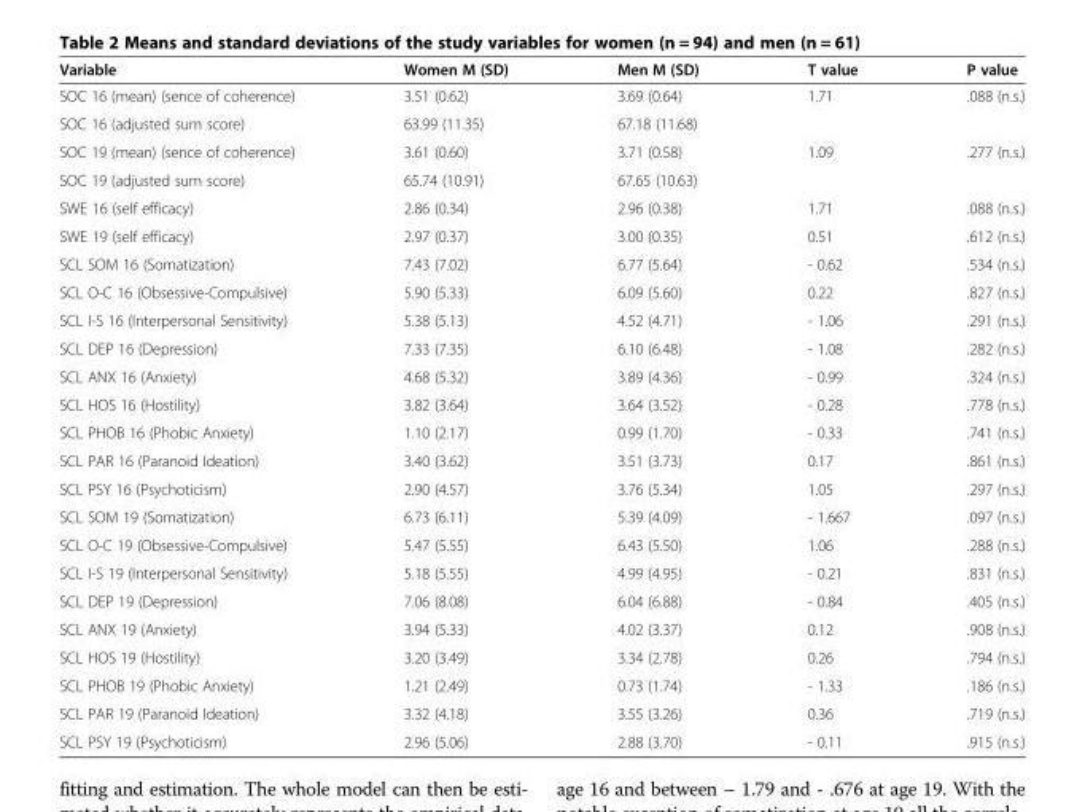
<table><thead><tr><td>Variable</td><td>Women M (SD)</td><td>Men M (SD)</td><td>T value</td><td>P value</td></tr></thead><tbody><tr><td>SOC 16 (mean) (sence of coherence)</td><td>3.51 (0.62)</td><td>3.69 (0.64)</td><td>1.71</td><td>.088 (n.s.)</td></tr><tr><td>SOC 16 (adjusted sum score)</td><td>63.99 (11.35)</td><td>67.18 (11.68)</td><td></td><td></td></tr><tr><td>SOC 19 (mean) (sence of coherence)</td><td>3.61 (0.60)</td><td>3.71 (0.58)</td><td>1.09</td><td>.277 (n.s.)</td></tr><tr><td>SOC 19 (adjusted sum score)</td><td>65.74 (10.91)</td><td>67.65 (10.63)</td><td></td><td></td></tr><tr><td>SWE 16 (self efficacy)</td><td>2.86 (0.34)</td><td>2.96 (0.38)</td><td>1.71</td><td>.088 (n.s.)</td></tr><tr><td>SWE 19 (self efficacy)</td><td>2.97 (0.37)</td><td>3.00 (0.35)</td><td>0.51</td><td>.612 (n.s.)</td></tr><tr><td>SCL SOM 16 (Somatization)</td><td>7.43 (7.02)</td><td>6.77 (5.64)</td><td>- 0.62</td><td>.534 (n.s.)</td></tr><tr><td>SCL O-C 16 (Obsessive-Compulsive)</td><td>5.90 (5.33)</td><td>6.09 (5.60)</td><td>0.22</td><td>.827 (n.s.)</td></tr><tr><td>SCL I-S 16 (Interpersonal Sensitivity)</td><td>5.38 (5.13)</td><td>4.52 (4.71)</td><td>- 1.06</td><td>.291 (n.s.)</td></tr><tr><td>SCL DEP 16 (Depression)</td><td>7.33 (7.35)</td><td>6.10 (6.48)</td><td>- 1.08</td><td>.282 (n.s.)</td></tr><tr><td>SCL ANX 16 (Anxiety)</td><td>4.68 (5.32)</td><td>3.89 (4.36)</td><td>- 0.99</td><td>.324 (n.s.)</td></tr><tr><td>SCL HOS 16 (Hostility)</td><td>3.82 (3.64)</td><td>3.64 (3.52)</td><td>- 0.28</td><td>.778 (n.s.)</td></tr><tr><td>SCL PHOB 16 (Phobic Anxiety)</td><td>1.10 (2.17)</td><td>0.99 (1.70)</td><td>- 0.33</td><td>.741 (n.s.)</td></tr><tr><td>SCL PAR 16 (Paranoid Ideation)</td><td>3.40 (3.62)</td><td>3.51 (3.73)</td><td>0.17</td><td>.861 (n.s.)</td></tr><tr><td>SCL PSY 16 (Psychoticism)</td><td>2.90 (4.57)</td><td>3.76 (5.34)</td><td>1.05</td><td>.297 (n.s.)</td></tr><tr><td>SCL SOM 19 (Somatization)</td><td>6.73 (6.11)</td><td>5.39 (4.09)</td><td>- 1.667</td><td>.097 (n.s.)</td></tr><tr><td>SCL O-C 19 (Obsessive-Compulsive)</td><td>5.47 (5.55)</td><td>6.43 (5.50)</td><td>1.06</td><td>.288 (n.s.)</td></tr><tr><td>SCL I-S 19 (Interpersonal Sensitivity)</td><td>5.18 (5.55)</td><td>4.99 (4.95)</td><td>- 0.21</td><td>.831 (n.s.)</td></tr><tr><td>SCL DEP 19 (Depression)</td><td>7.06 (8.08)</td><td>6.04 (6.88)</td><td>- 0.84</td><td>.405 (n.s.)</td></tr><tr><td>SCL ANX 19 (Anxiety)</td><td>3.94 (5.33)</td><td>4.02 (3.37)</td><td>0.12</td><td>.908 (n.s.)</td></tr><tr><td>SCL HOS 19 (Hostility)</td><td>3.20 (3.49)</td><td>3.34 (2.78)</td><td>0.26</td><td>.794 (n.s.)</td></tr><tr><td>SCL PHOB 19 (Phobic Anxiety)</td><td>1.21 (2.49)</td><td>0.73 (1.74)</td><td>- 1.33</td><td>.186 (n.s.)</td></tr><tr><td>SCL PAR 19 (Paranoid Ideation)</td><td>3.32 (4.18)</td><td>3.55 (3.26)</td><td>0.36</td><td>.719 (n.s.)</td></tr><tr><td>SCL PSY 19 (Psychoticism)</td><td>2.96 (5.06)</td><td>2.88 (3.70)</td><td>- 0.11</td><td>.915 (n.s.)</td></tr></tbody></table>